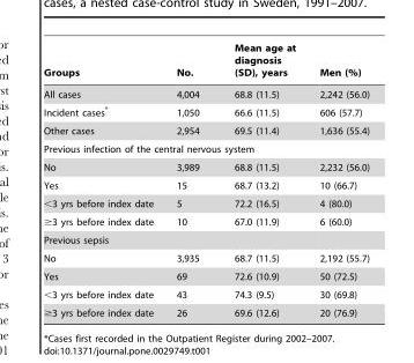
<table><thead><tr><td>Groups</td><td>No.</td><td>Mean age at diagnosis (SD), years</td><td>Men (%)</td></tr></thead><tbody><tr><td>All cases</td><td>4,004</td><td>68.8 (11.5)</td><td>2,242 (56.0)</td></tr><tr><td>Incident cases*</td><td>1,050</td><td>66.6 (11.5)</td><td>606 (57.7)</td></tr><tr><td>Other cases</td><td>2,954</td><td>69.5 (11.4)</td><td>1,636 (55.4)</td></tr><tr><td colspan="4">Previous infection of the central nervous system</td></tr><tr><td>No</td><td>3,989</td><td>68.8 (11.5)</td><td>2,232 (56.0)</td></tr><tr><td>Yes</td><td>15</td><td>68.7 (13.2)</td><td>10 (66.7)</td></tr><tr><td>&lt;3 yrs before index date</td><td>5</td><td>72.2 (16.5)</td><td>4 (80.0)</td></tr><tr><td>≥3 yrs before index date</td><td>10</td><td>67.0 (11.9)</td><td>6 (60.0)</td></tr><tr><td colspan="4">Previous sepsis</td></tr><tr><td>No</td><td>3,935</td><td>68.7 (11.5)</td><td>2,192 (55.7)</td></tr><tr><td>Yes</td><td>69</td><td>72.6 (10.9)</td><td>50 (72.5)</td></tr><tr><td>&lt;3 yrs before index date</td><td>43</td><td>74.3 (9.5)</td><td>30 (69.8)</td></tr><tr><td>≥3 yrs before index date</td><td>26</td><td>69.6 (12.6)</td><td>20 (76.9)</td></tr></tbody></table>